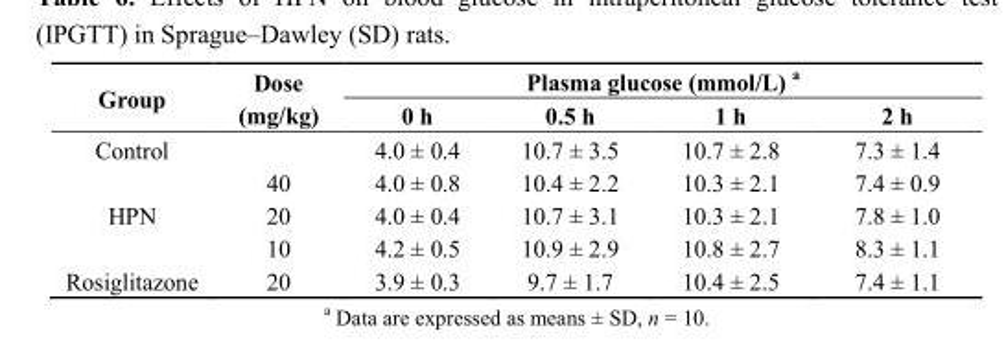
<table><thead><tr><td rowspan="2">Group</td><td rowspan="2">Dose (mg/kg)</td><td colspan="4">Plasma glucose (mmol/L) <sup>a</sup></td></tr><tr><td>0 h</td><td>0.5 h</td><td>1 h</td><td>2 h</td></tr></thead><tbody><tr><td>Control</td><td></td><td>4.0 ± 0.4</td><td>10.7 ± 3.5</td><td>10.7 ± 2.8</td><td>7.3 ± 1.4</td></tr><tr><td rowspan="3">HPN</td><td>40</td><td>4.0 ± 0.8</td><td>10.4 ± 2.2</td><td>10.3 ± 2.1</td><td>7.4 ± 0.9</td></tr><tr><td>20</td><td>4.0 ± 0.4</td><td>10.7 ± 3.1</td><td>10.3 ± 2.1</td><td>7.8 ± 1.0</td></tr><tr><td>10</td><td>4.2 ± 0.5</td><td>10.9 ± 2.9</td><td>10.8 ± 2.7</td><td>8.3 ± 1.1</td></tr><tr><td>Rosiglitazone</td><td>20</td><td>3.9 ± 0.3</td><td>9.7 ± 1.7</td><td>10.4 ± 2.5</td><td>7.4 ± 1.1</td></tr></tbody></table>